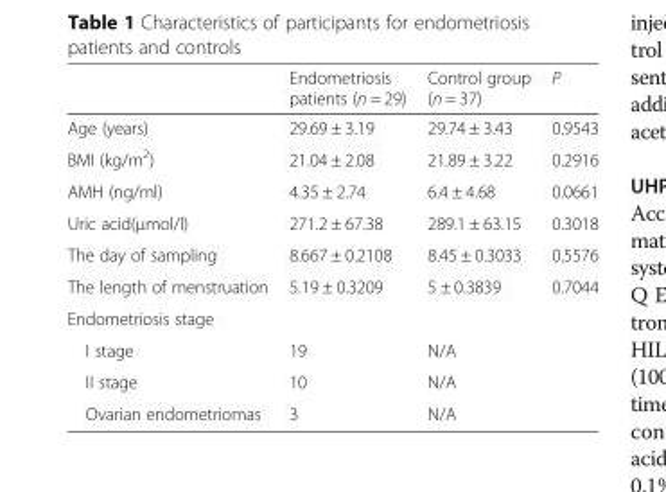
<table><thead><tr><td></td><td>Endometriosis patients (n = 29)</td><td>Control group (n = 37)</td><td>P</td></tr></thead><tbody><tr><td>Age (years)</td><td>29.69 ± 3.19</td><td>29.74 ± 3.43</td><td>0.9543</td></tr><tr><td>BMI (kg/m<sup>2</sup>)</td><td>21.04 ± 2.08</td><td>21.89 ± 3.22</td><td>0.2916</td></tr><tr><td>AMH (ng/ml)</td><td>4.35 ± 2.74</td><td>6.4 ± 4.68</td><td>0.0661</td></tr><tr><td>Uric acid(μmol/l)</td><td>271.2 ± 67.38</td><td>289.1 ± 63.15</td><td>0.3018</td></tr><tr><td>The day of sampling</td><td>8.667 ± 0.2108</td><td>8.45 ± 0.3033</td><td>0.5576</td></tr><tr><td>The length of menstruation</td><td>5.19 ± 0.3209</td><td>5 ± 0.3839</td><td>0.7044</td></tr><tr><td colspan="4">Endometriosis stage</td></tr><tr><td>I stage</td><td>19</td><td>N/A</td><td></td></tr><tr><td>II stage</td><td>10</td><td>N/A</td><td></td></tr><tr><td>Ovarian endometriomas</td><td>3</td><td>N/A</td><td></td></tr></tbody></table>